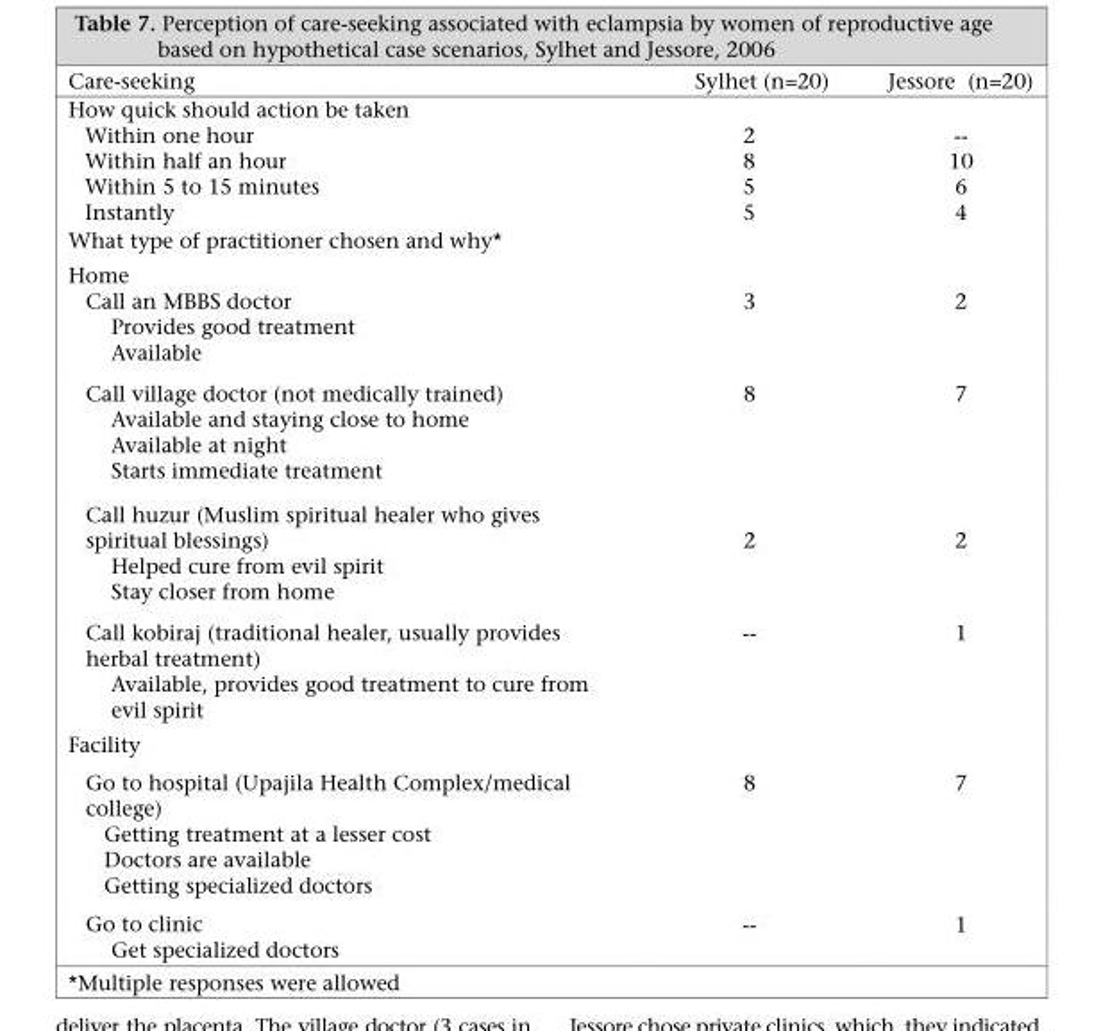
<table><thead><tr><td>Care-seeking</td><td>Sylhet (n=20)</td><td>Jessore (n=20)</td></tr></thead><tbody><tr><td colspan="3">How quick should action be taken</td></tr><tr><td>Within one hour</td><td>2</td><td>--</td></tr><tr><td>Within half an hour</td><td>8</td><td>10</td></tr><tr><td>Within 5 to 15 minutes</td><td>5</td><td>6</td></tr><tr><td>Instantly</td><td>5</td><td>4</td></tr><tr><td colspan="3">What type of practitioner chosen and why*</td></tr><tr><td colspan="3">Home</td></tr><tr><td>Call an MBBS doctor</td><td>3</td><td>2</td></tr><tr><td colspan="3">Provides good treatment</td></tr><tr><td colspan="3">Available</td></tr><tr><td>Call village doctor (not medically trained)</td><td>8</td><td>7</td></tr><tr><td colspan="3">Available and staying close to home</td></tr><tr><td colspan="3">Available at night</td></tr><tr><td colspan="3">Starts immediate treatment</td></tr><tr><td>Call huzur (Muslim spiritual healer who gives spiritual blessings)</td><td>2</td><td>2</td></tr><tr><td colspan="3">Helped cure from evil spirit</td></tr><tr><td colspan="3">Stay closer from home</td></tr><tr><td>Call kobiraj (traditional healer, usually provides herbal treatment)</td><td>--</td><td>1</td></tr><tr><td colspan="3">Available, provides good treatment to cure from</td></tr><tr><td colspan="3">evil spirit</td></tr><tr><td colspan="3">Facility</td></tr><tr><td>Go to hospital (Upajila Health Complex/medical college)</td><td>8</td><td>7</td></tr><tr><td colspan="3">Getting treatment at a lesser cost</td></tr><tr><td colspan="3">Doctors are available</td></tr><tr><td colspan="3">Getting specialized doctors</td></tr><tr><td>Go to clinic</td><td>--</td><td>1</td></tr><tr><td>Get specialized doctors</td><td></td><td></td></tr></tbody></table>